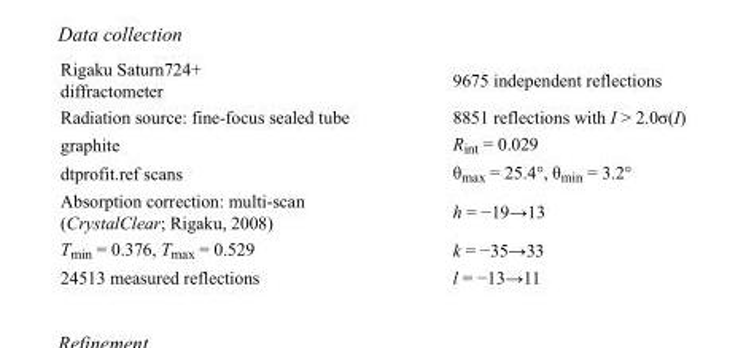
<table><tbody><tr><td>Rigaku Saturn724+ diffractometer</td><td>9675 independent reflections</td></tr><tr><td>Radiation source: fine-focus sealed tube</td><td>8851 reflections with I &gt; 2.0σ(I)</td></tr><tr><td>graphite</td><td>R<sub>int</sub> = 0.029</td></tr><tr><td>dtprofit.ref scans</td><td>θ<sub>max</sub> = 25.4°, θ<sub>min</sub> = 3.2°</td></tr><tr><td>Absorption correction: multi-scan (CrystalClear; Rigaku, 2008)</td><td>h = −19→13</td></tr><tr><td>T<sub>min</sub> = 0.376, T<sub>max</sub> = 0.529</td><td>k = −35→33</td></tr><tr><td>24513 measured reflections</td><td>l = −13→11</td></tr></tbody></table>